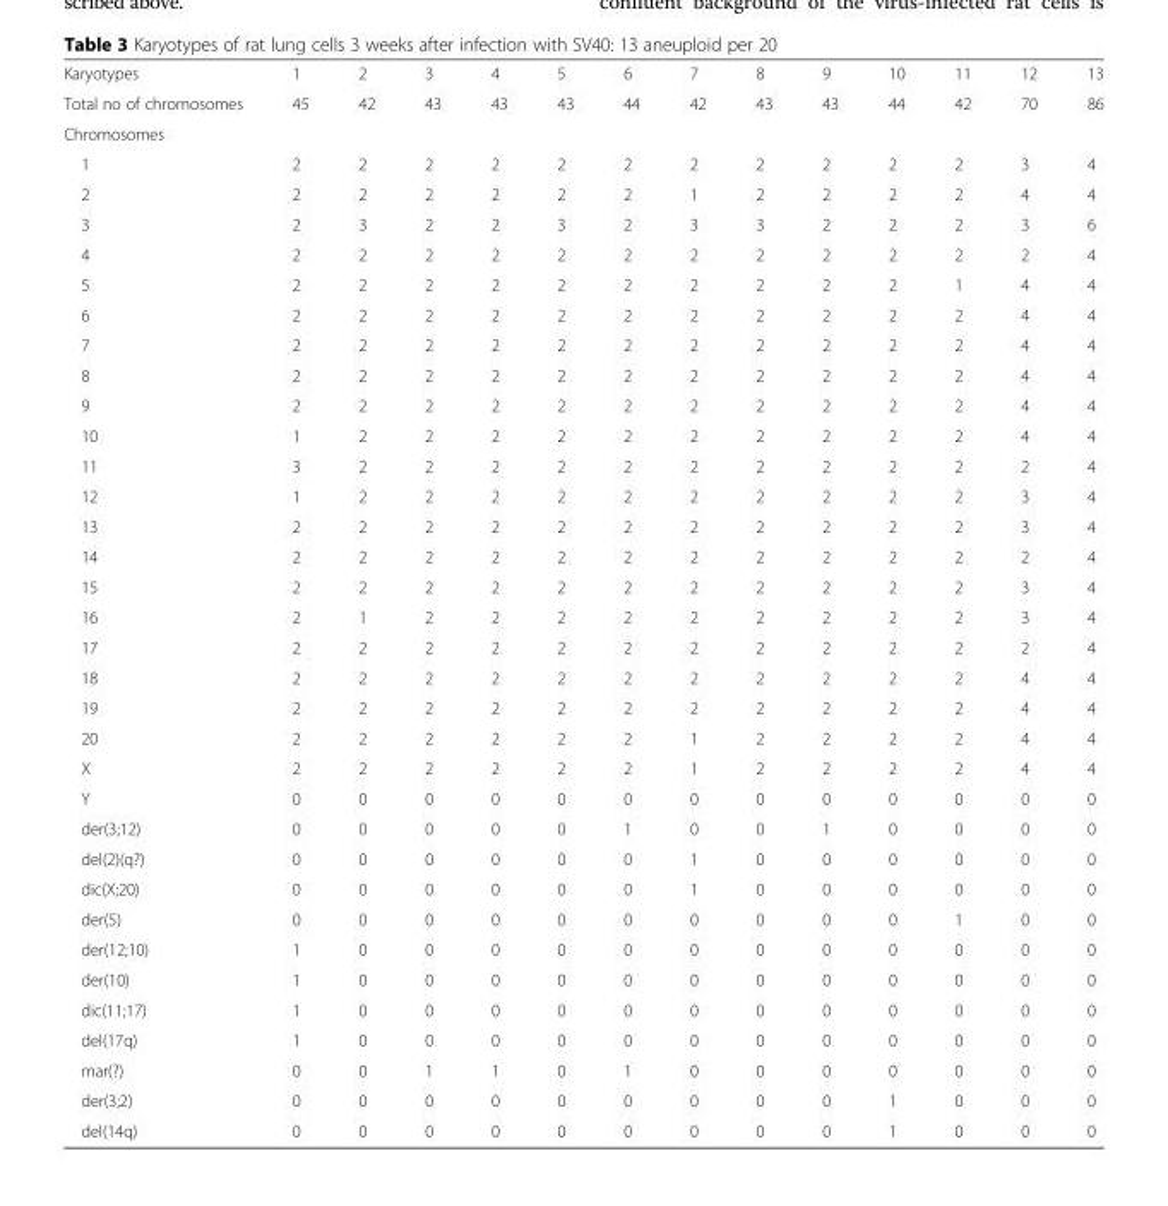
<table><tbody><tr><td>Karyotypes</td><td>1</td><td>2</td><td>3</td><td>4</td><td>5</td><td>6</td><td>7</td><td>8</td><td>9</td><td>10</td><td>11</td><td>12</td><td>13</td></tr><tr><td>Total no of chromosomes</td><td>45</td><td>42</td><td>43</td><td>43</td><td>43</td><td>44</td><td>42</td><td>43</td><td>43</td><td>44</td><td>42</td><td>70</td><td>86</td></tr><tr><td colspan="14">Chromosomes</td></tr><tr><td>1</td><td>2</td><td>2</td><td>2</td><td>2</td><td>2</td><td>2</td><td>2</td><td>2</td><td>2</td><td>2</td><td>2</td><td>3</td><td>4</td></tr><tr><td>2</td><td>2</td><td>2</td><td>2</td><td>2</td><td>2</td><td>2</td><td>1</td><td>2</td><td>2</td><td>2</td><td>2</td><td>4</td><td>4</td></tr><tr><td>3</td><td>2</td><td>3</td><td>2</td><td>2</td><td>3</td><td>2</td><td>3</td><td>3</td><td>2</td><td>2</td><td>2</td><td>3</td><td>6</td></tr><tr><td>4</td><td>2</td><td>2</td><td>2</td><td>2</td><td>2</td><td>2</td><td>2</td><td>2</td><td>2</td><td>2</td><td>2</td><td>2</td><td>4</td></tr><tr><td>5</td><td>2</td><td>2</td><td>2</td><td>2</td><td>2</td><td>2</td><td>2</td><td>2</td><td>2</td><td>2</td><td>1</td><td>4</td><td>4</td></tr><tr><td>6</td><td>2</td><td>2</td><td>2</td><td>2</td><td>2</td><td>2</td><td>2</td><td>2</td><td>2</td><td>2</td><td>2</td><td>4</td><td>4</td></tr><tr><td>7</td><td>2</td><td>2</td><td>2</td><td>2</td><td>2</td><td>2</td><td>2</td><td>2</td><td>2</td><td>2</td><td>2</td><td>4</td><td>4</td></tr><tr><td>8</td><td>2</td><td>2</td><td>2</td><td>2</td><td>2</td><td>2</td><td>2</td><td>2</td><td>2</td><td>2</td><td>2</td><td>4</td><td>4</td></tr><tr><td>9</td><td>2</td><td>2</td><td>2</td><td>2</td><td>2</td><td>2</td><td>2</td><td>2</td><td>2</td><td>2</td><td>2</td><td>4</td><td>4</td></tr><tr><td>10</td><td>1</td><td>2</td><td>2</td><td>2</td><td>2</td><td>2</td><td>2</td><td>2</td><td>2</td><td>2</td><td>2</td><td>4</td><td>4</td></tr><tr><td>11</td><td>3</td><td>2</td><td>2</td><td>2</td><td>2</td><td>2</td><td>2</td><td>2</td><td>2</td><td>2</td><td>2</td><td>2</td><td>4</td></tr><tr><td>12</td><td>1</td><td>2</td><td>2</td><td>2</td><td>2</td><td>2</td><td>2</td><td>2</td><td>2</td><td>2</td><td>2</td><td>3</td><td>4</td></tr><tr><td>13</td><td>2</td><td>2</td><td>2</td><td>2</td><td>2</td><td>2</td><td>2</td><td>2</td><td>2</td><td>2</td><td>2</td><td>3</td><td>4</td></tr><tr><td>14</td><td>2</td><td>2</td><td>2</td><td>2</td><td>2</td><td>2</td><td>2</td><td>2</td><td>2</td><td>2</td><td>2</td><td>2</td><td>4</td></tr><tr><td>15</td><td>2</td><td>2</td><td>2</td><td>2</td><td>2</td><td>2</td><td>2</td><td>2</td><td>2</td><td>2</td><td>2</td><td>3</td><td>4</td></tr><tr><td>16</td><td>2</td><td>1</td><td>2</td><td>2</td><td>2</td><td>2</td><td>2</td><td>2</td><td>2</td><td>2</td><td>2</td><td>3</td><td>4</td></tr><tr><td>17</td><td>2</td><td>2</td><td>2</td><td>2</td><td>2</td><td>2</td><td>2</td><td>2</td><td>2</td><td>2</td><td>2</td><td>2</td><td>4</td></tr><tr><td>18</td><td>2</td><td>2</td><td>2</td><td>2</td><td>2</td><td>2</td><td>2</td><td>2</td><td>2</td><td>2</td><td>2</td><td>4</td><td>4</td></tr><tr><td>19</td><td>2</td><td>2</td><td>2</td><td>2</td><td>2</td><td>2</td><td>2</td><td>2</td><td>2</td><td>2</td><td>2</td><td>4</td><td>4</td></tr><tr><td>20</td><td>2</td><td>2</td><td>2</td><td>2</td><td>2</td><td>2</td><td>1</td><td>2</td><td>2</td><td>2</td><td>2</td><td>4</td><td>4</td></tr><tr><td>X</td><td>2</td><td>2</td><td>2</td><td>2</td><td>2</td><td>2</td><td>1</td><td>2</td><td>2</td><td>2</td><td>2</td><td>4</td><td>4</td></tr><tr><td>Y</td><td>0</td><td>0</td><td>0</td><td>0</td><td>0</td><td>0</td><td>0</td><td>0</td><td>0</td><td>0</td><td>0</td><td>0</td><td>0</td></tr><tr><td>der(3;12)</td><td>0</td><td>0</td><td>0</td><td>0</td><td>0</td><td>1</td><td>0</td><td>0</td><td>1</td><td>0</td><td>0</td><td>0</td><td>0</td></tr><tr><td>del(2)(q?)</td><td>0</td><td>0</td><td>0</td><td>0</td><td>0</td><td>0</td><td>1</td><td>0</td><td>0</td><td>0</td><td>0</td><td>0</td><td>0</td></tr><tr><td>dic(X;20)</td><td>0</td><td>0</td><td>0</td><td>0</td><td>0</td><td>0</td><td>1</td><td>0</td><td>0</td><td>0</td><td>0</td><td>0</td><td>0</td></tr><tr><td>der(5)</td><td>0</td><td>0</td><td>0</td><td>0</td><td>0</td><td>0</td><td>0</td><td>0</td><td>0</td><td>0</td><td>1</td><td>0</td><td>0</td></tr><tr><td>der(12;10)</td><td>1</td><td>0</td><td>0</td><td>0</td><td>0</td><td>0</td><td>0</td><td>0</td><td>0</td><td>0</td><td>0</td><td>0</td><td>0</td></tr><tr><td>der(10)</td><td>1</td><td>0</td><td>0</td><td>0</td><td>0</td><td>0</td><td>0</td><td>0</td><td>0</td><td>0</td><td>0</td><td>0</td><td>0</td></tr><tr><td>dic(11;17)</td><td>1</td><td>0</td><td>0</td><td>0</td><td>0</td><td>0</td><td>0</td><td>0</td><td>0</td><td>0</td><td>0</td><td>0</td><td>0</td></tr><tr><td>del(17q)</td><td>1</td><td>0</td><td>0</td><td>0</td><td>0</td><td>0</td><td>0</td><td>0</td><td>0</td><td>0</td><td>0</td><td>0</td><td>0</td></tr><tr><td>mar(?)</td><td>0</td><td>0</td><td>1</td><td>1</td><td>0</td><td>1</td><td>0</td><td>0</td><td>0</td><td>0</td><td>0</td><td>0</td><td>0</td></tr><tr><td>der(3;2)</td><td>0</td><td>0</td><td>0</td><td>0</td><td>0</td><td>0</td><td>0</td><td>0</td><td>0</td><td>1</td><td>0</td><td>0</td><td>0</td></tr><tr><td>del(14q)</td><td>0</td><td>0</td><td>0</td><td>0</td><td>0</td><td>0</td><td>0</td><td>0</td><td>0</td><td>1</td><td>0</td><td>0</td><td>0</td></tr></tbody></table>